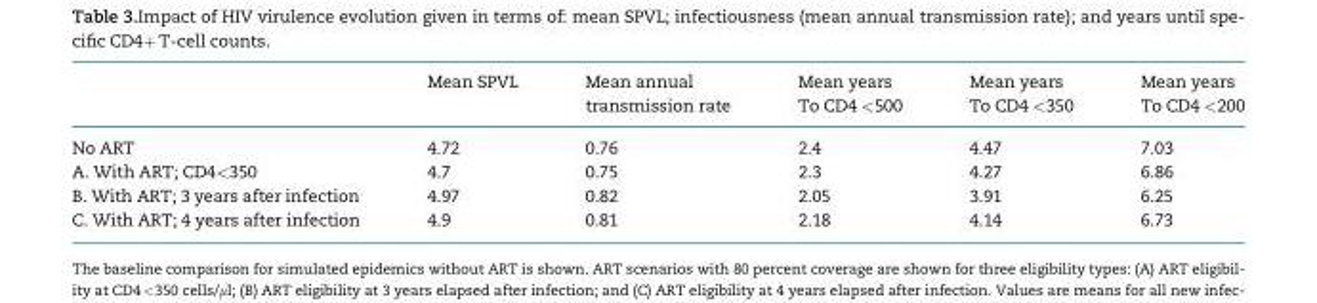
<table><thead><tr><td rowspan="2"></td><td rowspan="2">Mean SPVL</td><td rowspan="2">Mean annual transmission rate</td><td rowspan="2">Mean years To CD4 &lt;500</td><td rowspan="2">Mean years To CD4 &lt;350</td><td rowspan="2">Mean years To CD4 &lt;200</td></tr><tr></tr></thead><tbody><tr><td>No ART</td><td>4.72</td><td>0.76</td><td>2.4</td><td>4.47</td><td>7.03</td></tr><tr><td>A. With ART; CD4&lt;350</td><td>4.7</td><td>0.75</td><td>2.3</td><td>4.27</td><td>6.86</td></tr><tr><td>B. With ART; 3 years after infection</td><td>4.97</td><td>0.82</td><td>2.05</td><td>3.91</td><td>6.25</td></tr><tr><td>C. With ART; 4 years after infection</td><td>4.9</td><td>0.81</td><td>2.18</td><td>4.14</td><td>6.73</td></tr></tbody></table>